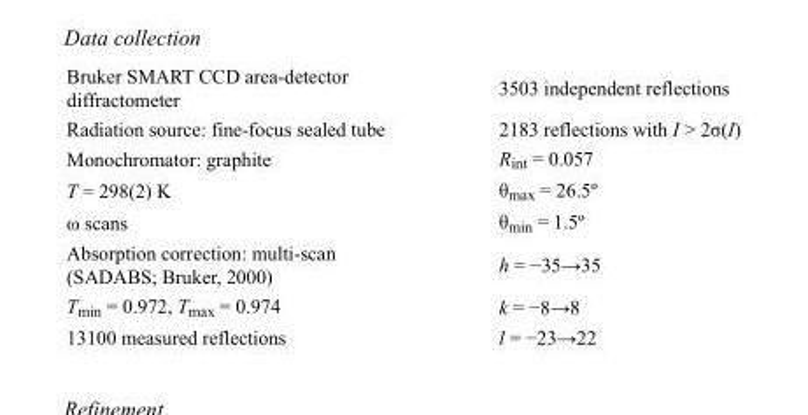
<table><tbody><tr><td>Bruker SMART CCD area-detector diffractometer</td><td>3503 independent reflections</td></tr><tr><td>Radiation source: fine-focus sealed tube</td><td>2183 reflections with I &gt; 2σ(I)</td></tr><tr><td>Monochromator: graphite</td><td>R<sub>int</sub> = 0.057</td></tr><tr><td>T = 298(2) K</td><td>θ<sub>max</sub> = 26.5º</td></tr><tr><td>ω scans</td><td>θ<sub>min</sub> = 1.5º</td></tr><tr><td>Absorption correction: multi-scan (SADABS; Bruker, 2000)</td><td>h = −35→35</td></tr><tr><td>T<sub>min</sub> = 0.972, T<sub>max</sub> = 0.974</td><td>k = −8→8</td></tr><tr><td>13100 measured reflections</td><td>l = −23→22</td></tr></tbody></table>